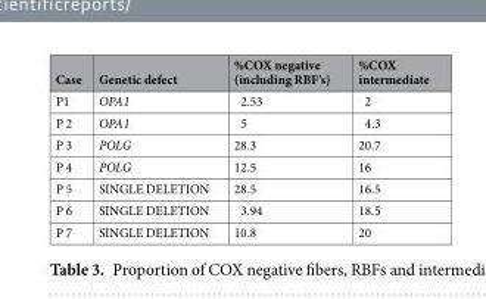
<table><thead><tr><td>Case</td><td>Genetic defect</td><td>%COX negative (including RBF’s)</td><td>%COX intermediate</td></tr></thead><tbody><tr><td>P1</td><td>OPA1</td><td>2.53</td><td>2</td></tr><tr><td>P 2</td><td>OPA1</td><td>5</td><td>4.3</td></tr><tr><td>P 3</td><td>POLG</td><td>28.3</td><td>20.7</td></tr><tr><td>P 4</td><td>POLG</td><td>12.5</td><td>16</td></tr><tr><td>P 5</td><td>SINGLE DELETION</td><td>28.5</td><td>16.5</td></tr><tr><td>P 6</td><td>SINGLE DELETION</td><td>3.94</td><td>18.5</td></tr><tr><td>P 7</td><td>SINGLE DELETION</td><td>10.8</td><td>20</td></tr></tbody></table>